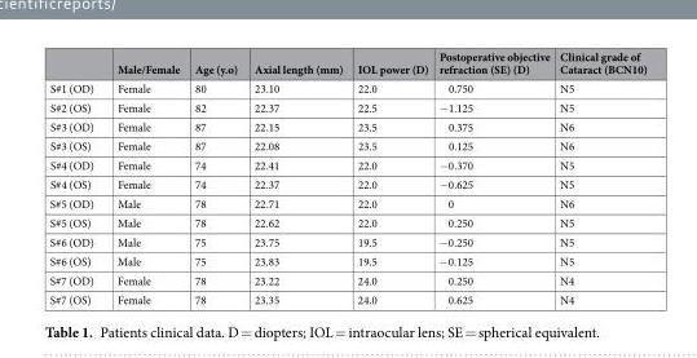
<table><thead><tr><td></td><td>Male/Female</td><td>Age (y.o)</td><td>Axial length (mm)</td><td>IOL power (D)</td><td>Postoperative objective refraction (SE) (D)</td><td>Clinical grade of Cataract (BCN10)</td></tr></thead><tbody><tr><td>S#1 (OD)</td><td>Female</td><td>80</td><td>23.10</td><td>22.0</td><td>0.750</td><td>N5</td></tr><tr><td>S#2 (OS)</td><td>Female</td><td>82</td><td>22.37</td><td>22.5</td><td>−1.125</td><td>N5</td></tr><tr><td>S#3 (OD)</td><td>Female</td><td>87</td><td>22.15</td><td>23.5</td><td>0.375</td><td>N6</td></tr><tr><td>S#3 (OS)</td><td>Female</td><td>87</td><td>22.08</td><td>23.5</td><td>0.125</td><td>N6</td></tr><tr><td>S#4 (OD)</td><td>Female</td><td>74</td><td>22.41</td><td>22.0</td><td>−0.370</td><td>N5</td></tr><tr><td>S#4 (OS)</td><td>Female</td><td>74</td><td>22.37</td><td>22.0</td><td>−0.625</td><td>N5</td></tr><tr><td>S#5 (OD)</td><td>Male</td><td>78</td><td>22.71</td><td>22.0</td><td>0</td><td>N6</td></tr><tr><td>S#5 (OS)</td><td>Male</td><td>78</td><td>22.62</td><td>22.0</td><td>0.250</td><td>N5</td></tr><tr><td>S#6 (OD)</td><td>Male</td><td>75</td><td>23.75</td><td>19.5</td><td>−0.250</td><td>N5</td></tr><tr><td>S#6 (OS)</td><td>Male</td><td>75</td><td>23.83</td><td>19.5</td><td>−0.125</td><td>N5</td></tr><tr><td>S#7 (OD)</td><td>Female</td><td>78</td><td>23.22</td><td>24.0</td><td>0.250</td><td>N4</td></tr><tr><td>S#7 (OS)</td><td>Female</td><td>78</td><td>23.35</td><td>24.0</td><td>0.625</td><td>N4</td></tr></tbody></table>